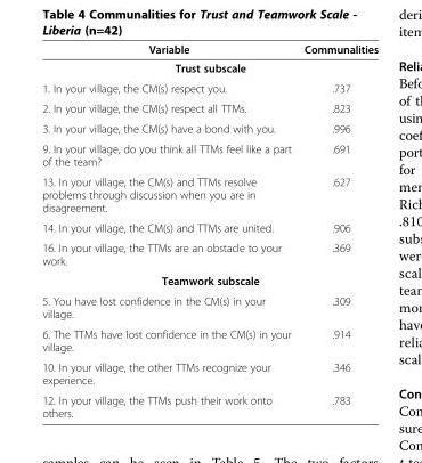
<table><thead><tr><td>Variable</td><td>Communalities</td></tr></thead><tbody><tr><td colspan="2">Trust subscale</td></tr><tr><td>1. In your village, the CM(s) respect you.</td><td>.737</td></tr><tr><td>2. In your village, the CM(s) respect all TTMs.</td><td>.823</td></tr><tr><td>3. In your village, the CM(s) have a bond with you.</td><td>.996</td></tr><tr><td>9. In your village, do you think all TTMs feel like a part of the team?</td><td>.691</td></tr><tr><td>13. In your village, the CM(s) and TTMs resolve problems through discussion when you are in disagreement.</td><td>.627</td></tr><tr><td>14. In your village, the CM(s) and TTMs are united.</td><td>.906</td></tr><tr><td>16. In your village, the TTMs are an obstacle to your work.</td><td>.369</td></tr><tr><td colspan="2">Teamwork subscale</td></tr><tr><td>5. You have lost confidence in the CM(s) in your village.</td><td>.309</td></tr><tr><td>6. The TTMs have lost confidence in the CM(s) in your village.</td><td>.914</td></tr><tr><td>10. In your village, the other TTMs recognize your experience.</td><td>.346</td></tr><tr><td>12. In your village, the TTMs push their work onto others.</td><td>.783</td></tr></tbody></table>